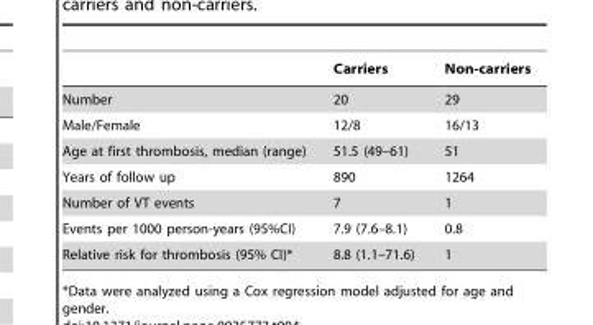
<table><thead><tr><td></td><td>Carriers</td><td>Non-carriers</td></tr></thead><tbody><tr><td>Number</td><td>20</td><td>29</td></tr><tr><td>Male/Female</td><td>12/8</td><td>16/13</td></tr><tr><td>Age at first thrombosis, median (range)</td><td>51.5 (49–61)</td><td>51</td></tr><tr><td>Years of follow up</td><td>890</td><td>1264</td></tr><tr><td>Number of VT events</td><td>7</td><td>1</td></tr><tr><td>Events per 1000 person-years (95%CI)</td><td>7.9 (7.6–8.1)</td><td>0.8</td></tr><tr><td>Relative risk for thrombosis (95% CI)*</td><td>8.8 (1.1–71.6)</td><td>1</td></tr></tbody></table>